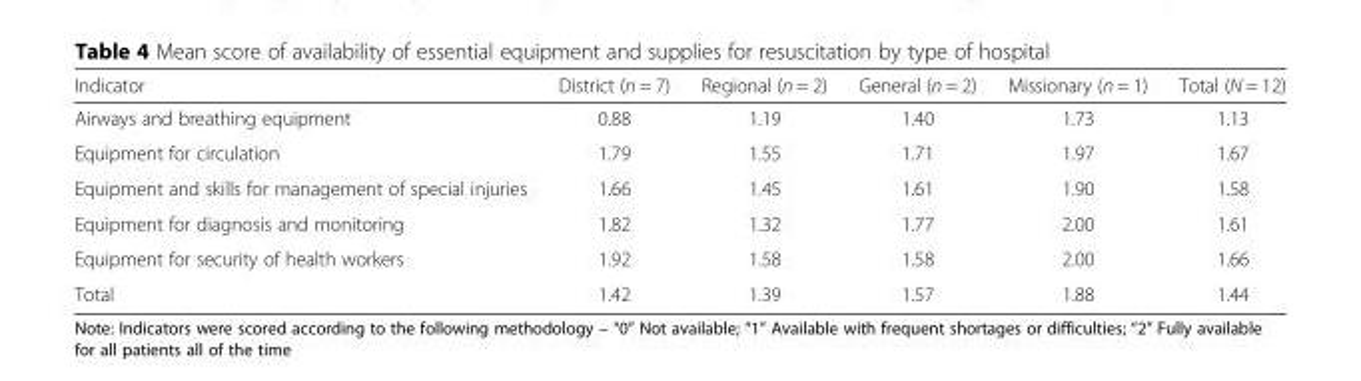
<table><thead><tr><td>Indicator</td><td>District (n = 7)</td><td>Regional (n = 2)</td><td>General (n = 2)</td><td>Missionary (n = 1)</td><td>Total (N = 12)</td></tr></thead><tbody><tr><td>Airways and breathing equipment</td><td>0.88</td><td>1.19</td><td>1.40</td><td>1.73</td><td>1.13</td></tr><tr><td>Equipment for circulation</td><td>1.79</td><td>1.55</td><td>1.71</td><td>1.97</td><td>1.67</td></tr><tr><td>Equipment and skills for management of special injuries</td><td>1.66</td><td>1.45</td><td>1.61</td><td>1.90</td><td>1.58</td></tr><tr><td>Equipment for diagnosis and monitoring</td><td>1.82</td><td>1.32</td><td>1.77</td><td>2.00</td><td>1.61</td></tr><tr><td>Equipment for security of health workers</td><td>1.92</td><td>1.58</td><td>1.58</td><td>2.00</td><td>1.66</td></tr><tr><td>Total</td><td>1.42</td><td>1.39</td><td>1.57</td><td>1.88</td><td>1.44</td></tr></tbody></table>